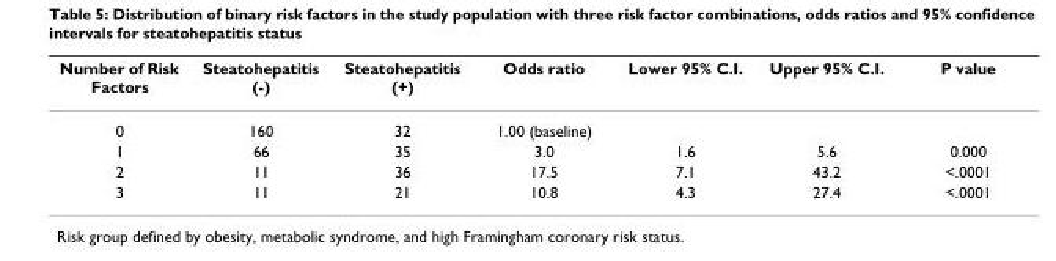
<table><thead><tr><td>Number of Risk Factors</td><td>Steatohepatitis (-)</td><td>Steatohepatitis (+)</td><td>Odds ratio</td><td>Lower 95% C.I.</td><td>Upper 95% C.I.</td><td>P value</td></tr></thead><tbody><tr><td>0</td><td>160</td><td>32</td><td>1.00 (baseline)</td><td></td><td></td><td></td></tr><tr><td>1</td><td>66</td><td>35</td><td>3.0</td><td>1.6</td><td>5.6</td><td>0.000</td></tr><tr><td>2</td><td>11</td><td>36</td><td>17.5</td><td>7.1</td><td>43.2</td><td>&lt;.0001</td></tr><tr><td>3</td><td>11</td><td>21</td><td>10.8</td><td>4.3</td><td>27.4</td><td>&lt;.0001</td></tr></tbody></table>